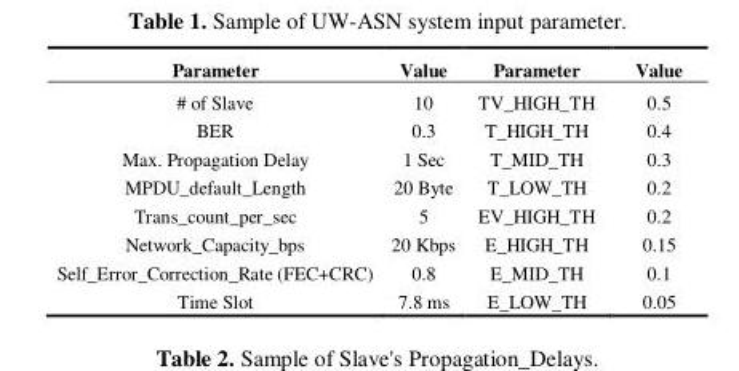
<table><thead><tr><td>Parameter</td><td>Value</td><td>Parameter</td><td>Value</td></tr></thead><tbody><tr><td># of Slave</td><td>10</td><td>TV_HIGH_TH</td><td>0.5</td></tr><tr><td>BER</td><td>0.3</td><td>T_HIGH_TH</td><td>0.4</td></tr><tr><td>Max. Propagation Delay</td><td>1 Sec</td><td>T_MID_TH</td><td>0.3</td></tr><tr><td>MPDU_default_Length</td><td>20 Byte</td><td>T_LOW_TH</td><td>0.2</td></tr><tr><td>Trans_count_per_sec</td><td>5</td><td>EV_HIGH_TH</td><td>0.2</td></tr><tr><td>Network_Capacity_bps</td><td>20 Kbps</td><td>E_HIGH_TH</td><td>0.15</td></tr><tr><td>Self_Error_Correction_Rate (FEC+CRC)</td><td>0.8</td><td>E_MID_TH</td><td>0.1</td></tr><tr><td>Time Slot</td><td>7.8 ms</td><td>E_LOW_TH</td><td>0.05</td></tr></tbody></table>